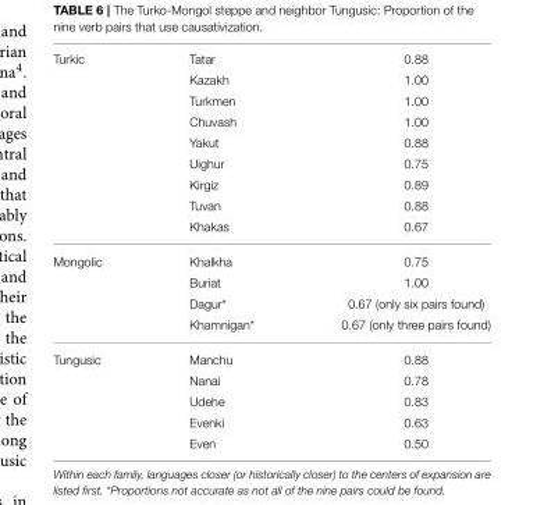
<table><tbody><tr><td rowspan="9">Turkic</td><td>Tatar</td><td>0.88</td></tr><tr><td>Kazakh</td><td>1.00</td></tr><tr><td>Turkmen</td><td>1.00</td></tr><tr><td>Chuvash</td><td>1.00</td></tr><tr><td>Yakut</td><td>0.88</td></tr><tr><td>Uighur</td><td>0.75</td></tr><tr><td>Kirgiz</td><td>0.89</td></tr><tr><td>Tuvan</td><td>0.88</td></tr><tr><td>Khakas</td><td>0.67</td></tr><tr><td rowspan="4">Mongolic</td><td>Khalkha</td><td>0.75</td></tr><tr><td>Buriat</td><td>1.00</td></tr><tr><td>Dagur*</td><td>0.67 (only six pairs found)</td></tr><tr><td>Khamnigan*</td><td>0.67 (only three pairs found)</td></tr><tr><td rowspan="5">Tungusic</td><td>Manchu</td><td>0.88</td></tr><tr><td>Nanai</td><td>0.78</td></tr><tr><td>Udehe</td><td>0.83</td></tr><tr><td>Evenki</td><td>0.63</td></tr><tr><td>Even</td><td>0.50</td></tr></tbody></table>